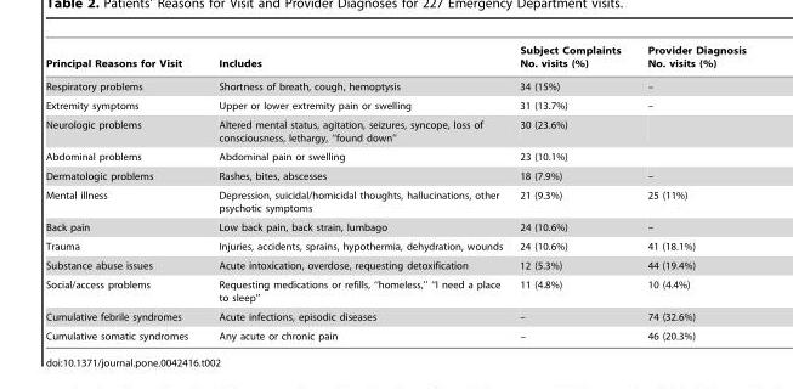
<table><thead><tr><td>Principal Reasons for Visit</td><td>Includes</td><td>Subject Complaints No. visits (%)</td><td>Provider Diagnosis No. visits (%)</td></tr></thead><tbody><tr><td>Respiratory problems</td><td>Shortness of breath, cough, hemoptysis</td><td>34 (15%)</td><td>–</td></tr><tr><td>Extremity symptoms</td><td>Upper or lower extremity pain or swelling</td><td>31 (13.7%)</td><td>–</td></tr><tr><td>Neurologic problems</td><td>Altered mental status, agitation, seizures, syncope, loss of consciousness, lethargy, ‘‘found down’’</td><td>30 (23.6%)</td><td></td></tr><tr><td>Abdominal problems</td><td>Abdominal pain or swelling</td><td>23 (10.1%)</td><td></td></tr><tr><td>Dermatologic problems</td><td>Rashes, bites, abscesses</td><td>18 (7.9%)</td><td>–</td></tr><tr><td>Mental illness</td><td>Depression, suicidal/homicidal thoughts, hallucinations, other psychotic symptoms</td><td>21 (9.3%)</td><td>25 (11%)</td></tr><tr><td>Back pain</td><td>Low back pain, back strain, lumbago</td><td>24 (10.6%)</td><td>–</td></tr><tr><td>Trauma</td><td>Injuries, accidents, sprains, hypothermia, dehydration, wounds</td><td>24 (10.6%)</td><td>41 (18.1%)</td></tr><tr><td>Substance abuse issues</td><td>Acute intoxication, overdose, requesting detoxification</td><td>12 (5.3%)</td><td>44 (19.4%)</td></tr><tr><td>Social/access problems</td><td>Requesting medications or refills, ‘‘homeless,’’ ‘‘I need a place to sleep’’</td><td>11 (4.8%)</td><td>10 (4.4%)</td></tr><tr><td>Cumulative febrile syndromes</td><td>Acute infections, episodic diseases</td><td>–</td><td>74 (32.6%)</td></tr><tr><td>Cumulative somatic syndromes</td><td>Any acute or chronic pain</td><td>–</td><td>46 (20.3%)</td></tr></tbody></table>